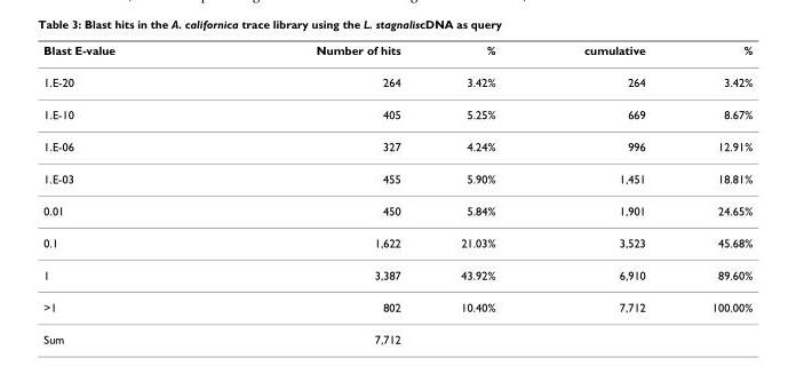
<table><thead><tr><td>Blast E-value</td><td>Number of hits</td><td>%</td><td>cumulative</td><td>%</td></tr></thead><tbody><tr><td>1.E-20</td><td>264</td><td>3.42%</td><td>264</td><td>3.42%</td></tr><tr><td>1.E-10</td><td>405</td><td>5.25%</td><td>669</td><td>8.67%</td></tr><tr><td>1.E-06</td><td>327</td><td>4.24%</td><td>996</td><td>12.91%</td></tr><tr><td>1.E-03</td><td>455</td><td>5.90%</td><td>1,451</td><td>18.81%</td></tr><tr><td>0.01</td><td>450</td><td>5.84%</td><td>1,901</td><td>24.65%</td></tr><tr><td>0.1</td><td>1,622</td><td>21.03%</td><td>3,523</td><td>45.68%</td></tr><tr><td>1</td><td>3,387</td><td>43.92%</td><td>6,910</td><td>89.60%</td></tr><tr><td>&gt;1</td><td>802</td><td>10.40%</td><td>7,712</td><td>100.00%</td></tr><tr><td>Sum</td><td>7,712</td><td></td><td></td><td></td></tr></tbody></table>